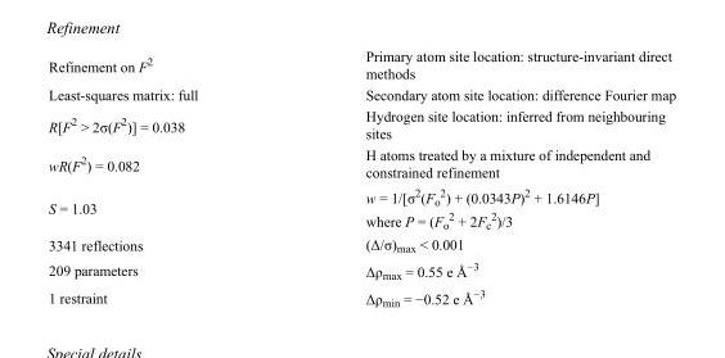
<table><tbody><tr><td>Refinement on F<sup>2</sup></td><td>Primary atom site location: structure-invariant direct methods</td></tr><tr><td>Least-squares matrix: full</td><td>Secondary atom site location: difference Fourier map</td></tr><tr><td>R[F<sup>2</sup> &gt; 2σ(F<sup>2</sup>)] = 0.038</td><td>Hydrogen site location: inferred from neighbouring sites</td></tr><tr><td>wR(F<sup>2</sup>) = 0.082</td><td>H atoms treated by a mixture of independent and constrained refinement</td></tr><tr><td>S = 1.03</td><td>w = 1/[σ<sup>2</sup>(F<sub>o</sub> <sup>2</sup>) + (0.0343P)<sup>2</sup> + 1.6146P] where P = (F<sub>o</sub> <sup>2</sup> + 2F<sub>c</sub> <sup>2</sup>)/3</td></tr><tr><td>3341 reflections</td><td>(Δ/σ)<sub>max</sub> &lt; 0.001</td></tr><tr><td>209 parameters</td><td>Δρ<sub>max</sub> = 0.55 e Å<sup>−3</sup></td></tr><tr><td>1 restraint</td><td>Δρ<sub>min</sub> = −0.52 e Å<sup>−3</sup></td></tr></tbody></table>